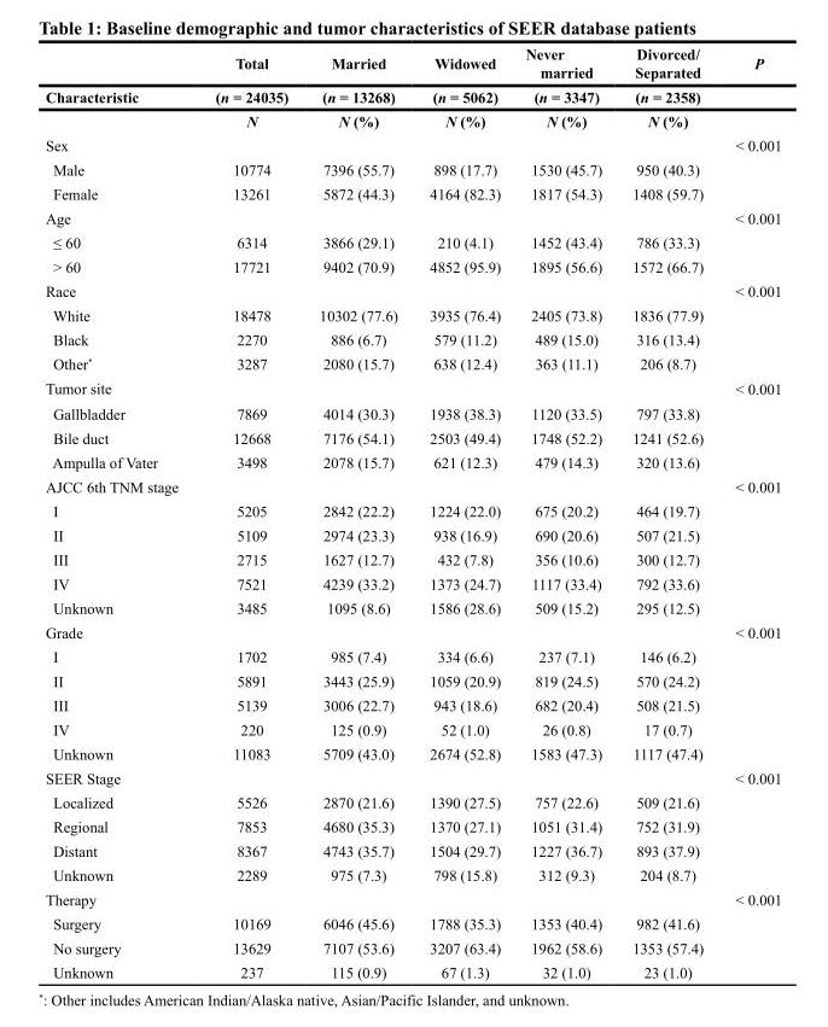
<table><thead><tr><td rowspan="3">Characteristic</td><td rowspan="3">Total (n = 24035) N</td><td rowspan="3">Married (n = 13268) N (%)</td><td rowspan="3">Widowed (n = 5062) N (%)</td><td rowspan="3">Never married (n = 3347) N (%)</td><td rowspan="3">Divorced/ Separated (n = 2358) N (%)</td><td rowspan="3">P</td></tr><tr></tr><tr></tr></thead><tbody><tr><td>Sex</td><td></td><td></td><td></td><td></td><td></td><td>&lt; 0.001</td></tr><tr><td>Male</td><td>10774</td><td>7396 (55.7)</td><td>898 (17.7)</td><td>1530 (45.7)</td><td>950 (40.3)</td><td></td></tr><tr><td>Female</td><td>13261</td><td>5872 (44.3)</td><td>4164 (82.3)</td><td>1817 (54.3)</td><td>1408 (59.7)</td><td></td></tr><tr><td>Age</td><td></td><td></td><td></td><td></td><td></td><td>&lt; 0.001</td></tr><tr><td>≤ 60</td><td>6314</td><td>3866 (29.1)</td><td>210 (4.1)</td><td>1452 (43.4)</td><td>786 (33.3)</td><td></td></tr><tr><td>&gt; 60</td><td>17721</td><td>9402 (70.9)</td><td>4852 (95.9)</td><td>1895 (56.6)</td><td>1572 (66.7)</td><td></td></tr><tr><td>Race</td><td></td><td></td><td></td><td></td><td></td><td>&lt; 0.001</td></tr><tr><td>White</td><td>18478</td><td>10302 (77.6)</td><td>3935 (76.4)</td><td>2405 (73.8)</td><td>1836 (77.9)</td><td></td></tr><tr><td>Black</td><td>2270</td><td>886 (6.7)</td><td>579 (11.2)</td><td>489 (15.0)</td><td>316 (13.4)</td><td></td></tr><tr><td>Other*</td><td>3287</td><td>2080 (15.7)</td><td>638 (12.4)</td><td>363 (11.1)</td><td>206 (8.7)</td><td></td></tr><tr><td>Tumor site</td><td></td><td></td><td></td><td></td><td></td><td>&lt; 0.001</td></tr><tr><td>Gallbladder</td><td>7869</td><td>4014 (30.3)</td><td>1938 (38.3)</td><td>1120 (33.5)</td><td>797 (33.8)</td><td></td></tr><tr><td>Bile duct</td><td>12668</td><td>7176 (54.1)</td><td>2503 (49.4)</td><td>1748 (52.2)</td><td>1241 (52.6)</td><td></td></tr><tr><td>Ampulla of Vater</td><td>3498</td><td>2078 (15.7)</td><td>621 (12.3)</td><td>479 (14.3)</td><td>320 (13.6)</td><td></td></tr><tr><td>AJCC 6th TNM stage</td><td></td><td></td><td></td><td></td><td></td><td>&lt; 0.001</td></tr><tr><td>I</td><td>5205</td><td>2842 (22.2)</td><td>1224 (22.0)</td><td>675 (20.2)</td><td>464 (19.7)</td><td></td></tr><tr><td>II</td><td>5109</td><td>2974 (23.3)</td><td>938 (16.9)</td><td>690 (20.6)</td><td>507 (21.5)</td><td></td></tr><tr><td>III</td><td>2715</td><td>1627 (12.7)</td><td>432 (7.8)</td><td>356 (10.6)</td><td>300 (12.7)</td><td></td></tr><tr><td>IV</td><td>7521</td><td>4239 (33.2)</td><td>1373 (24.7)</td><td>1117 (33.4)</td><td>792 (33.6)</td><td></td></tr><tr><td>Unknown</td><td>3485</td><td>1095 (8.6)</td><td>1586 (28.6)</td><td>509 (15.2)</td><td>295 (12.5)</td><td></td></tr><tr><td>Grade</td><td></td><td></td><td></td><td></td><td></td><td>&lt; 0.001</td></tr><tr><td>I</td><td>1702</td><td>985 (7.4)</td><td>334 (6.6)</td><td>237 (7.1)</td><td>146 (6.2)</td><td></td></tr><tr><td>II</td><td>5891</td><td>3443 (25.9)</td><td>1059 (20.9)</td><td>819 (24.5)</td><td>570 (24.2)</td><td></td></tr><tr><td>III</td><td>5139</td><td>3006 (22.7)</td><td>943 (18.6)</td><td>682 (20.4)</td><td>508 (21.5)</td><td></td></tr><tr><td>IV</td><td>220</td><td>125 (0.9)</td><td>52 (1.0)</td><td>26 (0.8)</td><td>17 (0.7)</td><td></td></tr><tr><td>Unknown</td><td>11083</td><td>5709 (43.0)</td><td>2674 (52.8)</td><td>1583 (47.3)</td><td>1117 (47.4)</td><td></td></tr><tr><td>SEER Stage</td><td></td><td></td><td></td><td></td><td></td><td>&lt; 0.001</td></tr><tr><td>Localized</td><td>5526</td><td>2870 (21.6)</td><td>1390 (27.5)</td><td>757 (22.6)</td><td>509 (21.6)</td><td></td></tr><tr><td>Regional</td><td>7853</td><td>4680 (35.3)</td><td>1370 (27.1)</td><td>1051 (31.4)</td><td>752 (31.9)</td><td></td></tr><tr><td>Distant</td><td>8367</td><td>4743 (35.7)</td><td>1504 (29.7)</td><td>1227 (36.7)</td><td>893 (37.9)</td><td></td></tr><tr><td>Unknown</td><td>2289</td><td>975 (7.3)</td><td>798 (15.8)</td><td>312 (9.3)</td><td>204 (8.7)</td><td></td></tr><tr><td>Therapy</td><td></td><td></td><td></td><td></td><td></td><td>&lt; 0.001</td></tr><tr><td>Surgery</td><td>10169</td><td>6046 (45.6)</td><td>1788 (35.3)</td><td>1353 (40.4)</td><td>982 (41.6)</td><td></td></tr><tr><td>No surgery</td><td>13629</td><td>7107 (53.6)</td><td>3207 (63.4)</td><td>1962 (58.6)</td><td>1353 (57.4)</td><td></td></tr><tr><td>Unknown</td><td>237</td><td>115 (0.9)</td><td>67 (1.3)</td><td>32 (1.0)</td><td>23 (1.0)</td><td></td></tr></tbody></table>